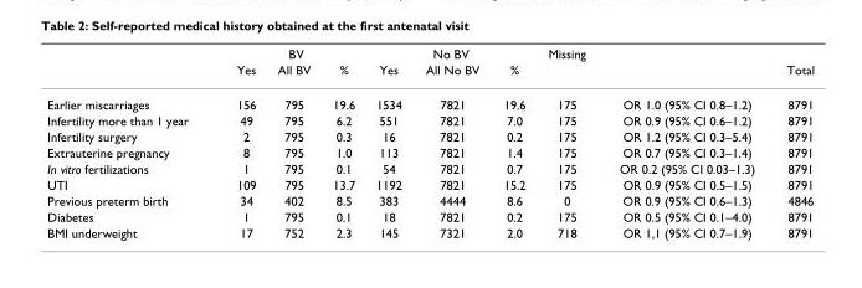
<table><thead><tr><td rowspan="2"></td><td colspan="3">BV</td><td colspan="3">No BV</td><td rowspan="2">Missing</td><td rowspan="2"></td><td rowspan="2">Total</td></tr><tr><td>Yes</td><td>All BV</td><td>%</td><td>Yes</td><td>All No BV</td><td>%</td></tr></thead><tbody><tr><td>Earlier miscarriages</td><td>156</td><td>795</td><td>19.6</td><td>1534</td><td>7821</td><td>19.6</td><td>175</td><td>OR 1.0 (95% CI 0.8–1.2)</td><td>8791</td></tr><tr><td>Infertility more than 1 year</td><td>49</td><td>795</td><td>6.2</td><td>551</td><td>7821</td><td>7.0</td><td>175</td><td>OR 0.9 (95% CI 0.6–1.2)</td><td>8791</td></tr><tr><td>Infertility surgery</td><td>2</td><td>795</td><td>0.3</td><td>16</td><td>7821</td><td>0.2</td><td>175</td><td>OR 1.2 (95% CI 0.3–5.4)</td><td>8791</td></tr><tr><td>Extrauterine pregnancy</td><td>8</td><td>795</td><td>1.0</td><td>113</td><td>7821</td><td>1.4</td><td>175</td><td>OR 0.7 (95% CI 0.3–1.4)</td><td>8791</td></tr><tr><td>In vitro fertilizations</td><td>1</td><td>795</td><td>0.1</td><td>54</td><td>7821</td><td>0.7</td><td>175</td><td>OR 0.2 (95% CI 0.03–1.3)</td><td>8791</td></tr><tr><td>UTI</td><td>109</td><td>795</td><td>13.7</td><td>1192</td><td>7821</td><td>15.2</td><td>175</td><td>OR 0.9 (95% CI 0.5–1.5)</td><td>8791</td></tr><tr><td>Previous preterm birth</td><td>34</td><td>402</td><td>8.5</td><td>383</td><td>4444</td><td>8.6</td><td>0</td><td>OR 0.9 (95% CI 0.6–1.3)</td><td>4846</td></tr><tr><td>Diabetes</td><td>1</td><td>795</td><td>0.1</td><td>18</td><td>7821</td><td>0.2</td><td>175</td><td>OR 0.5 (95% CI 0.1–4.0)</td><td>8791</td></tr><tr><td>BMI underweight</td><td>17</td><td>752</td><td>2.3</td><td>145</td><td>7321</td><td>2.0</td><td>718</td><td>OR 1,1 (95% CI 0.7–1.9)</td><td>8791</td></tr></tbody></table>